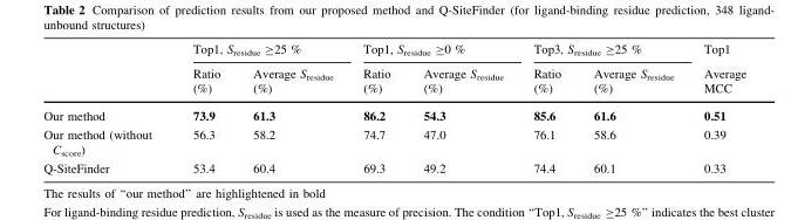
<table><thead><tr><td rowspan="2"></td><td colspan="2">Top1, S<sub>residue</sub> ≥25 %</td><td colspan="2">Top1, S<sub>residue</sub> ≥0 %</td><td colspan="2">Top3, S<sub>residue</sub> ≥25 %</td><td rowspan="2">Top1 Average MCC</td></tr><tr><td>Ratio (%)</td><td>Average S<sub>residue</sub> (%)</td><td>Ratio (%)</td><td>Average S<sub>residue</sub> (%)</td><td>Ratio (%)</td><td>Average S<sub>residue</sub> (%)</td></tr></thead><tbody><tr><td>Our method</td><td>73.9</td><td>61.3</td><td>86.2</td><td>54.3</td><td>85.6</td><td>61.6</td><td>0.51</td></tr><tr><td>Our method (without C<sub>score</sub>)</td><td>56.3</td><td>58.2</td><td>74.7</td><td>47.0</td><td>76.1</td><td>58.6</td><td>0.39</td></tr><tr><td>Q-SiteFinder</td><td>53.4</td><td>60.4</td><td>69.3</td><td>49.2</td><td>74.4</td><td>60.1</td><td>0.33</td></tr></tbody></table>